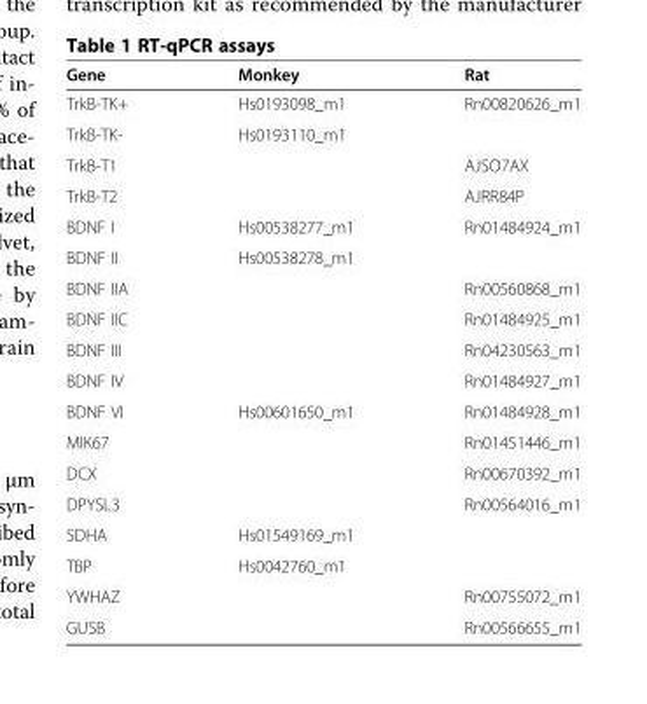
<table><thead><tr><td>Gene</td><td>Monkey</td><td>Rat</td></tr></thead><tbody><tr><td>TrkB-TK+</td><td>Hs0193098_m1</td><td>Rn00820626_m1</td></tr><tr><td>TrkB-TK-</td><td>Hs0193110_m1</td><td></td></tr><tr><td>TrkB-T1</td><td></td><td>AJSO7AX</td></tr><tr><td>TrkB-T2</td><td></td><td>AJRR84P</td></tr><tr><td>BDNF I</td><td>Hs00538277_m1</td><td>Rn01484924_m1</td></tr><tr><td>BDNF II</td><td>Hs00538278_m1</td><td></td></tr><tr><td>BDNF IIA</td><td></td><td>Rn00560868_m1</td></tr><tr><td>BDNF IIC</td><td></td><td>Rn01484925_m1</td></tr><tr><td>BDNF III</td><td></td><td>Rn04230563_m1</td></tr><tr><td>BDNF IV</td><td></td><td>Rn01484927_m1</td></tr><tr><td>BDNF VI</td><td>Hs00601650_m1</td><td>Rn01484928_m1</td></tr><tr><td>MIK67</td><td></td><td>Rn01451446_m1</td></tr><tr><td>DCX</td><td></td><td>Rn00670392_m1</td></tr><tr><td>DPYSL3</td><td></td><td>Rn00564016_m1</td></tr><tr><td>SDHA</td><td>Hs01549169_m1</td><td></td></tr><tr><td>TBP</td><td>Hs0042760_m1</td><td></td></tr><tr><td>YWHAZ</td><td></td><td>Rn00755072_m1</td></tr><tr><td>GUSB</td><td></td><td>Rn00566655_m1</td></tr></tbody></table>